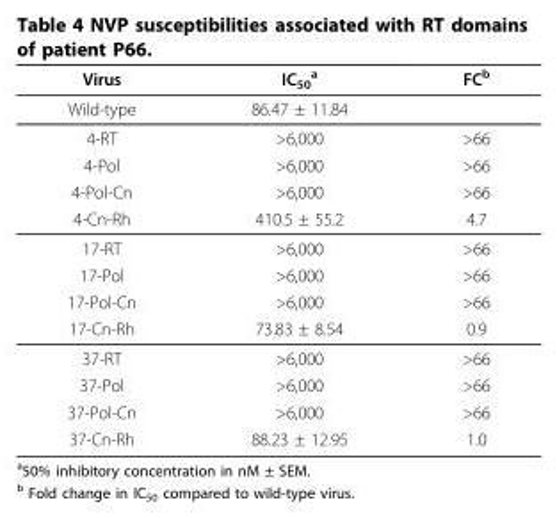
<table><thead><tr><td>Virus</td><td>IC<sub>50</sub> <sup>a</sup></td><td>FC<sup>b</sup></td></tr></thead><tbody><tr><td>Wild-type</td><td>86.47 ± 11.84</td><td></td></tr><tr><td>4-RT</td><td>&gt;6,000</td><td>&gt;66</td></tr><tr><td>4-Pol</td><td>&gt;6,000</td><td>&gt;66</td></tr><tr><td>4-Pol-Cn</td><td>&gt;6,000</td><td>&gt;66</td></tr><tr><td>4-Cn-Rh</td><td>410.5 ± 55.2</td><td>4.7</td></tr><tr><td>17-RT</td><td>&gt;6,000</td><td>&gt;66</td></tr><tr><td>17-Pol</td><td>&gt;6,000</td><td>&gt;66</td></tr><tr><td>17-Pol-Cn</td><td>&gt;6,000</td><td>&gt;66</td></tr><tr><td>17-Cn-Rh</td><td>73.83 ± 8.54</td><td>0.9</td></tr><tr><td>37-RT</td><td>&gt;6,000</td><td>&gt;66</td></tr><tr><td>37-Pol</td><td>&gt;6,000</td><td>&gt;66</td></tr><tr><td>37-Pol-Cn</td><td>&gt;6,000</td><td>&gt;66</td></tr><tr><td>37-Cn-Rh</td><td>88.23 ± 12.95</td><td>1.0</td></tr></tbody></table>